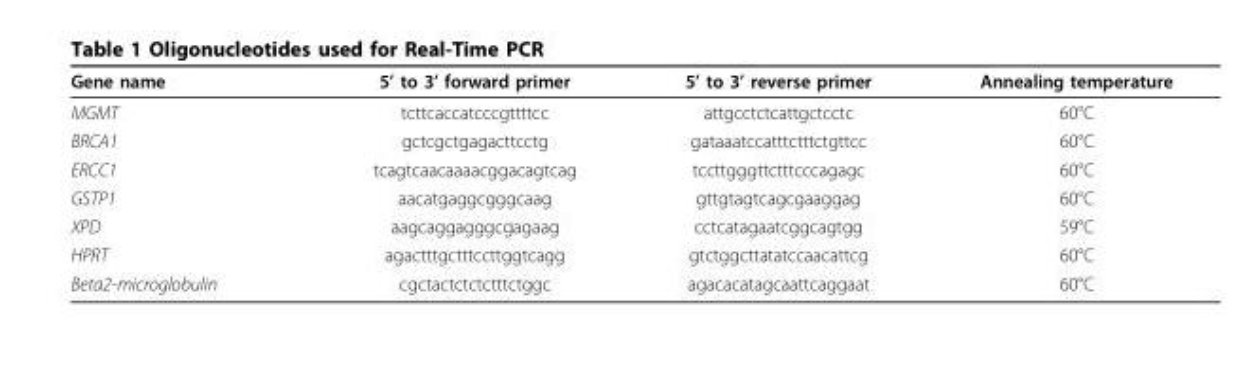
<table><thead><tr><td>Gene name</td><td>5’ to 3’ forward primer</td><td>5’ to 3’ reverse primer</td><td>Annealing temperature</td></tr></thead><tbody><tr><td>MGMT</td><td>tcttcaccatcccgttttcc</td><td>attgcctctcattgctcctc</td><td>60°C</td></tr><tr><td>BRCA1</td><td>gctcgctgagacttcctg</td><td>gataaatccatttctttctgttcc</td><td>60°C</td></tr><tr><td>ERCC1</td><td>tcagtcaacaaaacggacagtcag</td><td>tccttgggttctttcccagagc</td><td>60°C</td></tr><tr><td>GSTP1</td><td>aacatgaggcgggcaag</td><td>gttgtagtcagcgaaggag</td><td>60°C</td></tr><tr><td>XPD</td><td>aagcaggagggcgagaag</td><td>cctcatagaatcggcagtgg</td><td>59°C</td></tr><tr><td>HPRT</td><td>agactttgctttccttggtcagg</td><td>gtctggcttatatccaacattcg</td><td>60°C</td></tr><tr><td>Beta2-microglobulin</td><td>cgctactctctctttctggc</td><td>agacacatagcaattcaggaat</td><td>60°C</td></tr></tbody></table>